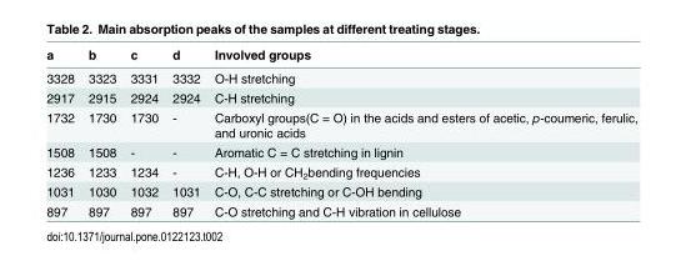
<table><thead><tr><td>a</td><td>b</td><td>c</td><td>d</td><td>Involved groups</td></tr></thead><tbody><tr><td>3328</td><td>3323</td><td>3331</td><td>3332</td><td>O-H stretching</td></tr><tr><td>2917</td><td>2915</td><td>2924</td><td>2924</td><td>C-H stretching</td></tr><tr><td>1732</td><td>1730</td><td>1730</td><td>-</td><td>Carboxyl groups(C = O) in the acids and esters of acetic, p-coumeric, ferulic, and uronic acids</td></tr><tr><td>1508</td><td>1508</td><td>-</td><td>-</td><td>Aromatic C = C stretching in lignin</td></tr><tr><td>1236</td><td>1233</td><td>1234</td><td>-</td><td>C-H, O-H or CH<sub>2</sub>bending frequencies</td></tr><tr><td>1031</td><td>1030</td><td>1032</td><td>1031</td><td>C-O, C-C stretching or C-OH bending</td></tr><tr><td>897</td><td>897</td><td>897</td><td>897</td><td>C-O stretching and C-H vibration in cellulose</td></tr></tbody></table>